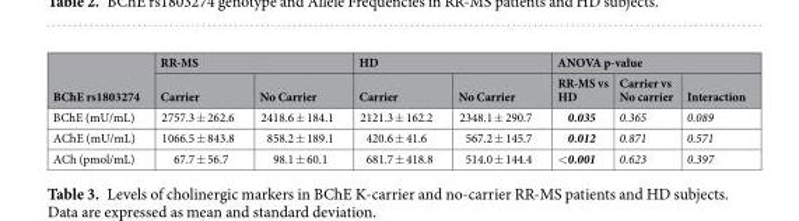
<table><thead><tr><td rowspan="2">BChE rs1803274</td><td colspan="2">RR-MS</td><td colspan="2">HD</td><td colspan="3">ANOVA p-value</td></tr><tr><td>Carrier</td><td>No Carrier</td><td>Carrier</td><td>No Carrier</td><td>RR-MS vs HD</td><td>Carrier vs No carrier</td><td>Interaction</td></tr></thead><tbody><tr><td>BChE (mU/mL)</td><td>2757.3 ± 262.6</td><td>2418.6 ± 184.1</td><td>2121.3 ± 162.2</td><td>2348.1 ± 290.7</td><td>0.035</td><td>0.365</td><td>0.089</td></tr><tr><td>AChE (mU/mL)</td><td>1066.5 ± 843.8</td><td>858.2 ± 189.1</td><td>420.6 ± 41.6</td><td>567.2 ± 145.7</td><td>0.012</td><td>0.871</td><td>0.571</td></tr><tr><td>ACh (pmol/mL)</td><td>67.7 ± 56.7</td><td>98.1 ± 60.1</td><td>681.7 ± 418.8</td><td>514.0 ± 144.4</td><td>&lt;0.001</td><td>0.623</td><td>0.397</td></tr></tbody></table>